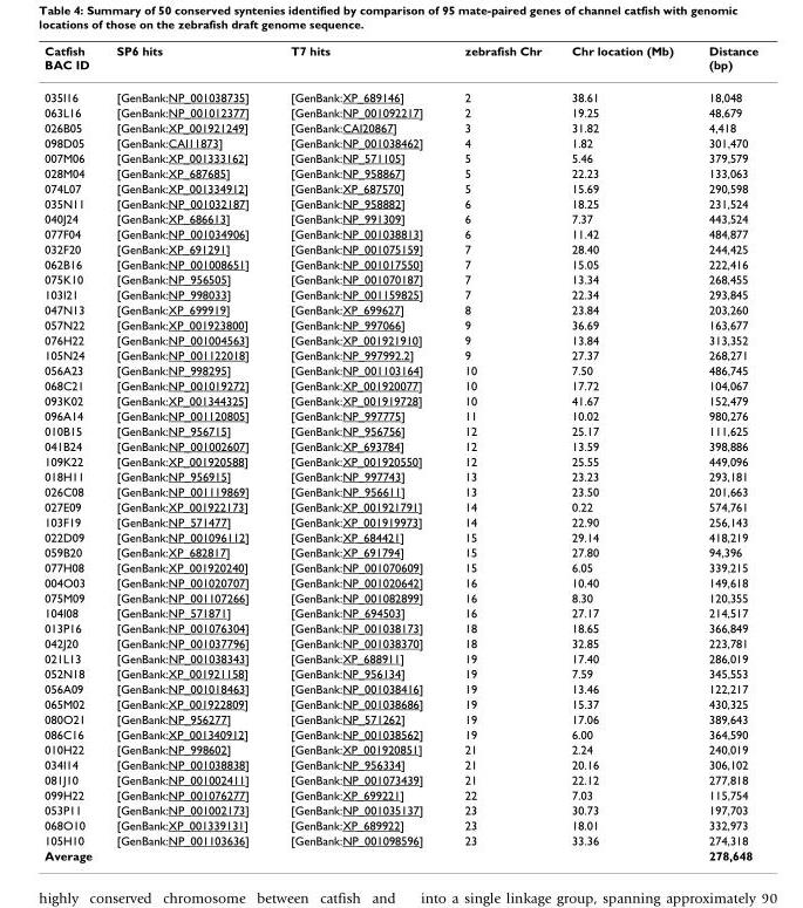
<table><thead><tr><td>Catfish BAC ID</td><td>SP6 hits</td><td>T7 hits</td><td>zebrafish Chr</td><td>Chr location (Mb)</td><td>Distance (bp)</td></tr></thead><tbody><tr><td>035I16</td><td>[GenBank:NP_001038735]</td><td>[GenBank:XP_689146]</td><td>2</td><td>38.61</td><td>18,048</td></tr><tr><td>063L16</td><td>[GenBank:NP_001012377]</td><td>[GenBank:NP_001092217]</td><td>2</td><td>19.25</td><td>48,679</td></tr><tr><td>026B05</td><td>[GenBank:XP_001921249]</td><td>[GenBank:CAI20867]</td><td>3</td><td>31.82</td><td>4,418</td></tr><tr><td>098D05</td><td>[GenBank:CAI11873]</td><td>[GenBank:NP_001038462]</td><td>4</td><td>1.82</td><td>301,470</td></tr><tr><td>007M06</td><td>[GenBank:XP_001333162]</td><td>[GenBank:NP_571105]</td><td>5</td><td>5.46</td><td>379,579</td></tr><tr><td>028M04</td><td>[GenBank:XP_687685]</td><td>[GenBank:NP_958867]</td><td>5</td><td>22.23</td><td>133,063</td></tr><tr><td>074L07</td><td>[GenBank:XP_001334912]</td><td>[GenBank:XP_687570]</td><td>5</td><td>15.69</td><td>290,598</td></tr><tr><td>035N11</td><td>[GenBank:NP_001032187]</td><td>[GenBank:NP_958882]</td><td>6</td><td>18.25</td><td>231,524</td></tr><tr><td>040J24</td><td>[GenBank:XP_686613]</td><td>[GenBank:NP_991309]</td><td>6</td><td>7.37</td><td>443,524</td></tr><tr><td>077F04</td><td>[GenBank:NP_001034906]</td><td>[GenBank:NP_001038813]</td><td>6</td><td>11.42</td><td>484,877</td></tr><tr><td>032F20</td><td>[GenBank:XP_691291]</td><td>[GenBank:NP_001075159]</td><td>7</td><td>28.40</td><td>244,425</td></tr><tr><td>062B16</td><td>[GenBank:NP_001008651]</td><td>[GenBank:NP_001017550]</td><td>7</td><td>15.05</td><td>222,416</td></tr><tr><td>075K10</td><td>[GenBank:NP_956505]</td><td>[GenBank:NP_001070187]</td><td>7</td><td>13.34</td><td>268,455</td></tr><tr><td>103I21</td><td>[GenBank:NP_998033]</td><td>[GenBank:NP_001159825]</td><td>7</td><td>22.34</td><td>293,845</td></tr><tr><td>047N13</td><td>[GenBank:XP_699919]</td><td>[GenBank:XP_699627]</td><td>8</td><td>23.84</td><td>203,260</td></tr><tr><td>057N22</td><td>[GenBank:XP_001923800]</td><td>[GenBank:NP_997066]</td><td>9</td><td>36.69</td><td>163,677</td></tr><tr><td>076H22</td><td>[GenBank:NP_001004563]</td><td>[GenBank:XP_001921910]</td><td>9</td><td>13.84</td><td>313,352</td></tr><tr><td>105N24</td><td>[GenBank:NP_001122018]</td><td>[GenBank:NP_997992.2]</td><td>9</td><td>27.37</td><td>268,271</td></tr><tr><td>056A23</td><td>[GenBank:NP_998295]</td><td>[GenBank:NP_001103164]</td><td>10</td><td>7.50</td><td>486,745</td></tr><tr><td>068C21</td><td>[GenBank:NP_001019272]</td><td>[GenBank:XP_001920077]</td><td>10</td><td>17.72</td><td>104,067</td></tr><tr><td>093K02</td><td>[GenBank:XP_001344325]</td><td>[GenBank:XP_001919728]</td><td>10</td><td>41.67</td><td>152,479</td></tr><tr><td>096A14</td><td>[GenBank:NP_001120805]</td><td>[GenBank:NP_997775]</td><td>11</td><td>10.02</td><td>980,276</td></tr><tr><td>010B15</td><td>[GenBank:NP_956715]</td><td>[GenBank:NP_956756]</td><td>12</td><td>25.17</td><td>111,625</td></tr><tr><td>041B24</td><td>[GenBank:NP_001002607]</td><td>[GenBank:XP_693784]</td><td>12</td><td>13.59</td><td>398,886</td></tr><tr><td>109K22</td><td>[GenBank:XP_001920588]</td><td>[GenBank:XP_001920550]</td><td>12</td><td>25.55</td><td>449,096</td></tr><tr><td>018H11</td><td>[GenBank:NP_956915]</td><td>[GenBank:NP_997743]</td><td>13</td><td>23.23</td><td>293,181</td></tr><tr><td>026C08</td><td>[GenBank:NP_001119869]</td><td>[GenBank:NP_956611]</td><td>13</td><td>23.50</td><td>201,663</td></tr><tr><td>027E09</td><td>[GenBank:XP_001922173]</td><td>[GenBank:XP_001921791]</td><td>14</td><td>0.22</td><td>574,761</td></tr><tr><td>103F19</td><td>[GenBank:NP_571477]</td><td>[GenBank:XP_001919973]</td><td>14</td><td>22.90</td><td>256,143</td></tr><tr><td>022D09</td><td>[GenBank:NP_001096112]</td><td>[GenBank:XP_684421]</td><td>15</td><td>29.14</td><td>418,219</td></tr><tr><td>059B20</td><td>[GenBank:XP_682817]</td><td>[GenBank:XP_691794]</td><td>15</td><td>27.80</td><td>94,396</td></tr><tr><td>077H08</td><td>[GenBank:XP_001920240]</td><td>[GenBank:NP_001070609]</td><td>15</td><td>6.05</td><td>339,215</td></tr><tr><td>004O03</td><td>[GenBank:NP_001020707]</td><td>[GenBank:NP_001020642]</td><td>16</td><td>10.40</td><td>149,618</td></tr><tr><td>075M09</td><td>[GenBank:NP_001107266]</td><td>[GenBank:NP_001082899]</td><td>16</td><td>8.30</td><td>120,355</td></tr><tr><td>104I08</td><td>[GenBank:NP_571871]</td><td>[GenBank:NP_694503]</td><td>16</td><td>27.17</td><td>214,517</td></tr><tr><td>013P16</td><td>[GenBank:NP_001076304]</td><td>[GenBank:NP_001038173]</td><td>18</td><td>18.65</td><td>366,849</td></tr><tr><td>042J20</td><td>[GenBank:NP_001037796]</td><td>[GenBank:NP_001038370]</td><td>18</td><td>32.85</td><td>223,781</td></tr><tr><td>021L13</td><td>[GenBank:NP_001038343]</td><td>[GenBank:XP_688911]</td><td>19</td><td>17.40</td><td>286,019</td></tr><tr><td>052N18</td><td>[GenBank:XP_001921158]</td><td>[GenBank:NP_956134]</td><td>19</td><td>7.59</td><td>345,553</td></tr><tr><td>056A09</td><td>[GenBank:NP_001018463]</td><td>[GenBank:NP_001038416]</td><td>19</td><td>13.46</td><td>122,217</td></tr><tr><td>065M02</td><td>[GenBank:XP_001922809]</td><td>[GenBank:NP_001038686]</td><td>19</td><td>15.37</td><td>430,325</td></tr><tr><td>080O21</td><td>[GenBank:NP_956277]</td><td>[GenBank:NP_571262]</td><td>19</td><td>17.06</td><td>389,643</td></tr><tr><td>086C16</td><td>[GenBank:XP_001340912]</td><td>[GenBank:NP_001038562]</td><td>19</td><td>6.00</td><td>364,590</td></tr><tr><td>010H22</td><td>[GenBank:NP_998602]</td><td>[GenBank:XP_001920851]</td><td>21</td><td>2.24</td><td>240,019</td></tr><tr><td>034I14</td><td>[GenBank:NP_001038838]</td><td>[GenBank:NP_956334]</td><td>21</td><td>20.16</td><td>306,102</td></tr><tr><td>081J10</td><td>[GenBank:NP_001002411]</td><td>[GenBank:NP_001073439]</td><td>21</td><td>22.12</td><td>277,818</td></tr><tr><td>099H22</td><td>[GenBank:NP_001076277]</td><td>[GenBank:XP_699221]</td><td>22</td><td>7.03</td><td>115,754</td></tr><tr><td>053P11</td><td>[GenBank:NP_001002173]</td><td>[GenBank:NP_001035137]</td><td>23</td><td>30.73</td><td>197,703</td></tr><tr><td>068O10</td><td>[GenBank:XP_001339131]</td><td>[GenBank:XP_689922]</td><td>23</td><td>18.01</td><td>332,973</td></tr><tr><td>105H10</td><td>[GenBank:NP_001103636]</td><td>[GenBank:NP_001098596]</td><td>23</td><td>33.36</td><td>274,318</td></tr><tr><td>Average</td><td></td><td></td><td></td><td></td><td>278,648</td></tr></tbody></table>